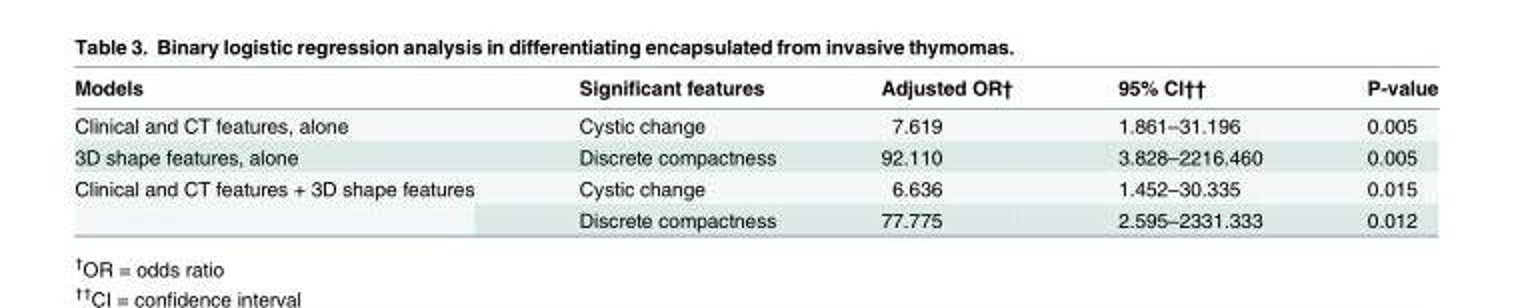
<table><thead><tr><td>Models</td><td>Significant features</td><td>Adjusted OR†</td><td>95% CI††</td><td>P-value</td></tr></thead><tbody><tr><td>Clinical and CT features, alone</td><td>Cystic change</td><td>7.619</td><td>1.861–31.196</td><td>0.005</td></tr><tr><td>3D shape features, alone</td><td>Discrete compactness</td><td>92.110</td><td>3.828–2216.460</td><td>0.005</td></tr><tr><td rowspan="2">Clinical and CT features + 3D shape features</td><td>Cystic change</td><td>6.636</td><td>1.452–30.335</td><td>0.015</td></tr><tr><td>Discrete compactness</td><td>77.775</td><td>2.595–2331.333</td><td>0.012</td></tr></tbody></table>